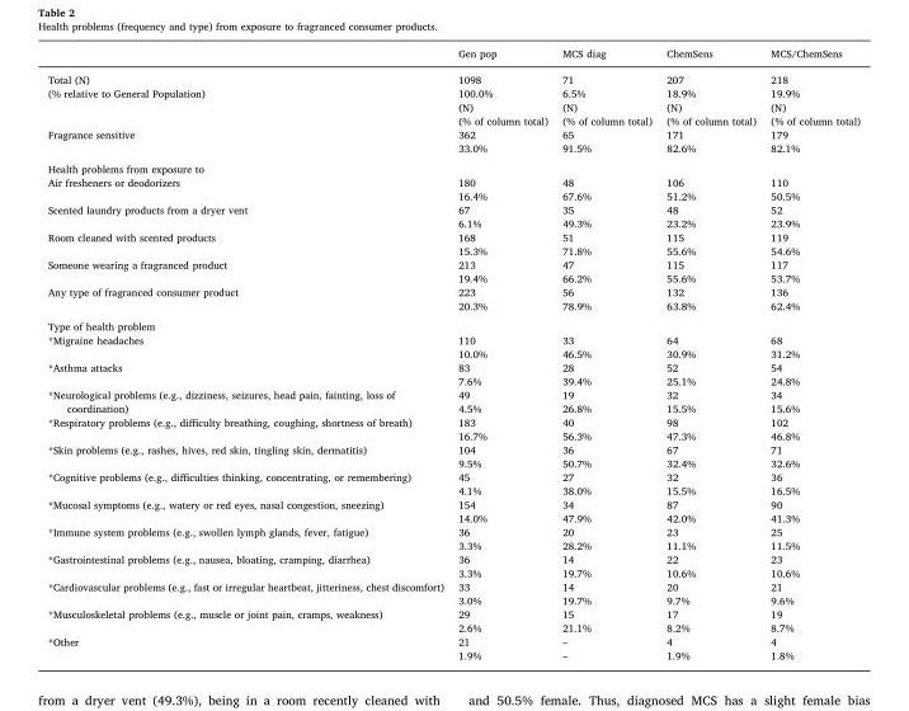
<table><thead><tr><td></td><td>Gen pop</td><td>MCS diag</td><td>ChemSens</td><td>MCS/ChemSens</td></tr></thead><tbody><tr><td>Total (N)</td><td>1098</td><td>71</td><td>207</td><td>218</td></tr><tr><td rowspan="3">(% relative to General Population)</td><td>100.0%</td><td>6.5%</td><td>18.9%</td><td>19.9%</td></tr><tr><td>(N)</td><td>(N)</td><td>(N)</td><td>(N)</td></tr><tr><td>(% of column total)</td><td>(% of column total)</td><td>(% of column total)</td><td>(% of column total)</td></tr><tr><td rowspan="2">Fragrance sensitive</td><td>362</td><td>65</td><td>171</td><td>179</td></tr><tr><td>33.0%</td><td>91.5%</td><td>82.6%</td><td>82.1%</td></tr><tr><td colspan="5">Health problems from exposure to</td></tr><tr><td rowspan="2">Air fresheners or deodorizers</td><td>180</td><td>48</td><td>106</td><td>110</td></tr><tr><td>16.4%</td><td>67.6%</td><td>51.2%</td><td>50.5%</td></tr><tr><td rowspan="2">Scented laundry products from a dryer vent</td><td>67</td><td>35</td><td>48</td><td>52</td></tr><tr><td>6.1%</td><td>49.3%</td><td>23.2%</td><td>23.9%</td></tr><tr><td rowspan="2">Room cleaned with scented products</td><td>168</td><td>51</td><td>115</td><td>119</td></tr><tr><td>15.3%</td><td>71.8%</td><td>55.6%</td><td>54.6%</td></tr><tr><td rowspan="2">Someone wearing a fragranced product</td><td>213</td><td>47</td><td>115</td><td>117</td></tr><tr><td>19.4%</td><td>66.2%</td><td>55.6%</td><td>53.7%</td></tr><tr><td rowspan="2">Any type of fragranced consumer product</td><td>223</td><td>56</td><td>132</td><td>136</td></tr><tr><td>20.3%</td><td>78.9%</td><td>63.8%</td><td>62.4%</td></tr><tr><td colspan="5">Type of health problem</td></tr><tr><td rowspan="2">*Migraine headaches</td><td>110</td><td>33</td><td>64</td><td>68</td></tr><tr><td>10.0%</td><td>46.5%</td><td>30.9%</td><td>31.2%</td></tr><tr><td rowspan="2">*Asthma attacks</td><td>83</td><td>28</td><td>52</td><td>54</td></tr><tr><td>7.6%</td><td>39.4%</td><td>25.1%</td><td>24.8%</td></tr><tr><td rowspan="2">*Neurological problems (e.g., dizziness, seizures, head pain, fainting, loss of coordination)</td><td>49</td><td>19</td><td>32</td><td>34</td></tr><tr><td>4.5%</td><td>26.8%</td><td>15.5%</td><td>15.6%</td></tr><tr><td rowspan="2">*Respiratory problems (e.g., difficulty breathing, coughing, shortness of breath)</td><td>183</td><td>40</td><td>98</td><td>102</td></tr><tr><td>16.7%</td><td>56.3%</td><td>47.3%</td><td>46.8%</td></tr><tr><td rowspan="2">*Skin problems (e.g., rashes, hives, red skin, tingling skin, dermatitis)</td><td>104</td><td>36</td><td>67</td><td>71</td></tr><tr><td>9.5%</td><td>50.7%</td><td>32.4%</td><td>32.6%</td></tr><tr><td rowspan="2">*Cognitive problems (e.g., difficulties thinking, concentrating, or remembering)</td><td>45</td><td>27</td><td>32</td><td>36</td></tr><tr><td>4.1%</td><td>38.0%</td><td>15.5%</td><td>16.5%</td></tr><tr><td rowspan="2">*Mucosal symptoms (e.g., watery or red eyes, nasal congestion, sneezing)</td><td>154</td><td>34</td><td>87</td><td>90</td></tr><tr><td>14.0%</td><td>47.9%</td><td>42.0%</td><td>41.3%</td></tr><tr><td rowspan="2">*Immune system problems (e.g., swollen lymph glands, fever, fatigue)</td><td>36</td><td>20</td><td>23</td><td>25</td></tr><tr><td>3.3%</td><td>28.2%</td><td>11.1%</td><td>11.5%</td></tr><tr><td rowspan="2">*Gastrointestinal problems (e.g., nausea, bloating, cramping, diarrhea)</td><td>36</td><td>14</td><td>22</td><td>23</td></tr><tr><td>3.3%</td><td>19.7%</td><td>10.6%</td><td>10.6%</td></tr><tr><td rowspan="2">*Cardiovascular problems (e.g., fast or irregular heartbeat, jitteriness, chest discomfort)</td><td>33</td><td>14</td><td>20</td><td>21</td></tr><tr><td>3.0%</td><td>19.7%</td><td>9.7%</td><td>9.6%</td></tr><tr><td rowspan="2">*Musculoskeletal problems (e.g., muscle or joint pain, cramps, weakness)</td><td>29</td><td>15</td><td>17</td><td>19</td></tr><tr><td>2.6%</td><td>21.1%</td><td>8.2%</td><td>8.7%</td></tr><tr><td rowspan="2">*Other</td><td>21</td><td>–</td><td>4</td><td>4</td></tr><tr><td>1.9%</td><td>–</td><td>1.9%</td><td>1.8%</td></tr></tbody></table>